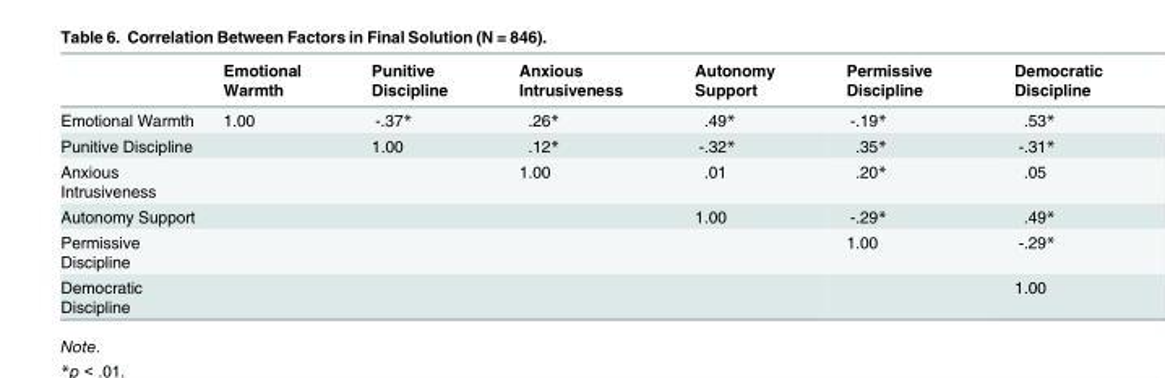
<table><thead><tr><td></td><td>Emotional Warmth</td><td>Punitive Discipline</td><td>Anxious Intrusiveness</td><td>Autonomy Support</td><td>Permissive Discipline</td><td>Democratic Discipline</td></tr></thead><tbody><tr><td>Emotional Warmth</td><td>1.00</td><td>-.37*</td><td>.26*</td><td>.49*</td><td>-.19*</td><td>.53*</td></tr><tr><td>Punitive Discipline</td><td></td><td>1.00</td><td>.12*</td><td>-.32*</td><td>.35*</td><td>-.31*</td></tr><tr><td>Anxious Intrusiveness</td><td></td><td></td><td>1.00</td><td>.01</td><td>.20*</td><td>.05</td></tr><tr><td>Autonomy Support</td><td></td><td></td><td></td><td>1.00</td><td>-.29*</td><td>.49*</td></tr><tr><td>Permissive Discipline</td><td></td><td></td><td></td><td></td><td>1.00</td><td>-.29*</td></tr><tr><td>Democratic Discipline</td><td></td><td></td><td></td><td></td><td></td><td>1.00</td></tr></tbody></table>